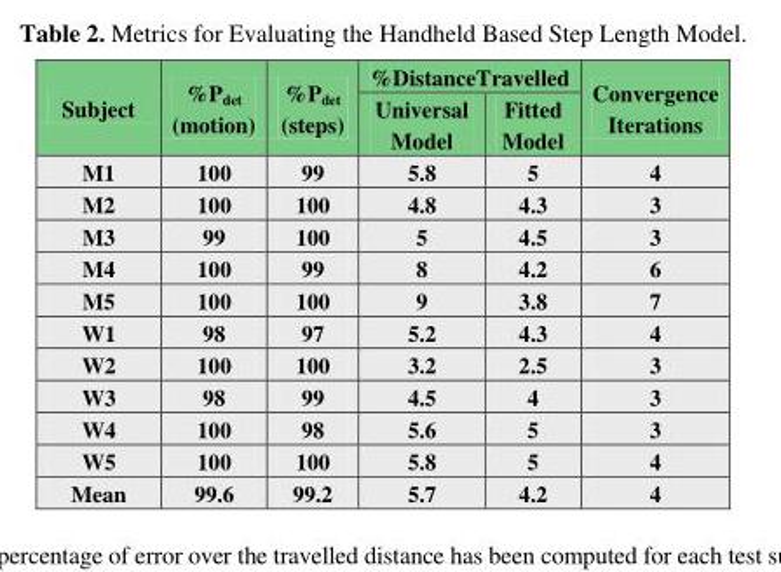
<table><thead><tr><td rowspan="2">Subject</td><td rowspan="2">%P<sub>det</sub> (motion)</td><td rowspan="2">%P<sub>det</sub> (steps)</td><td colspan="2">%DistanceTravelled</td><td rowspan="2">Convergence Iterations</td></tr><tr><td>Universal Model</td><td>Fitted Model</td></tr></thead><tbody><tr><td>M1</td><td>100</td><td>99</td><td>5.8</td><td>5</td><td>4</td></tr><tr><td>M2</td><td>100</td><td>100</td><td>4.8</td><td>4.3</td><td>3</td></tr><tr><td>M3</td><td>99</td><td>100</td><td>5</td><td>4.5</td><td>3</td></tr><tr><td>M4</td><td>100</td><td>99</td><td>8</td><td>4.2</td><td>6</td></tr><tr><td>M5</td><td>100</td><td>100</td><td>9</td><td>3.8</td><td>7</td></tr><tr><td>W1</td><td>98</td><td>97</td><td>5.2</td><td>4.3</td><td>4</td></tr><tr><td>W2</td><td>100</td><td>100</td><td>3.2</td><td>2.5</td><td>3</td></tr><tr><td>W3</td><td>98</td><td>99</td><td>4.5</td><td>4</td><td>3</td></tr><tr><td>W4</td><td>100</td><td>98</td><td>5.6</td><td>5</td><td>3</td></tr><tr><td>W5</td><td>100</td><td>100</td><td>5.8</td><td>5</td><td>4</td></tr><tr><td>Mean</td><td>99.6</td><td>99.2</td><td>5.7</td><td>4.2</td><td>4</td></tr></tbody></table>